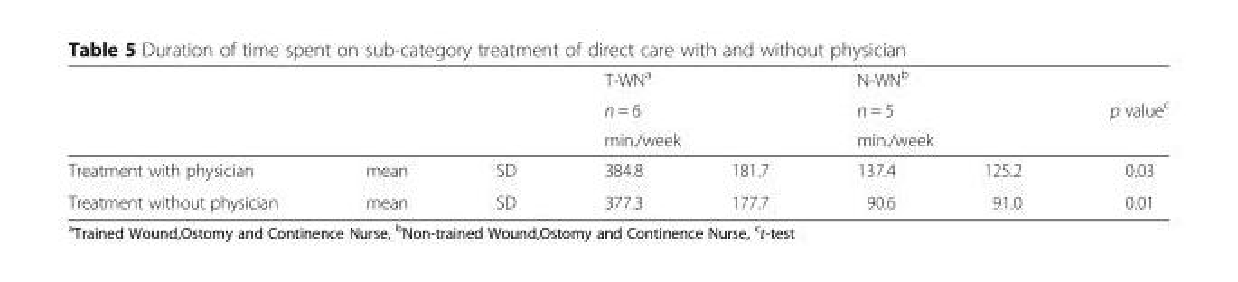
<table><thead><tr><td rowspan="4">Treatment with physician</td><td rowspan="4">mean</td><td rowspan="4">SD</td><td rowspan="3" colspan="2">T-WN<sup>a</sup> n = 6 min./week</td><td rowspan="3" colspan="2">N-WN<sup>b</sup> n = 5 min./week</td><td rowspan="4">p value<sup>c</sup> 0.03</td></tr><tr></tr><tr></tr><tr><td>384.8</td><td>181.7</td><td>137.4</td><td>125.2</td></tr></thead><tbody><tr><td>Treatment without physician</td><td>mean</td><td>SD</td><td>377.3</td><td>177.7</td><td>90.6</td><td>91.0</td><td>0.01</td></tr></tbody></table>